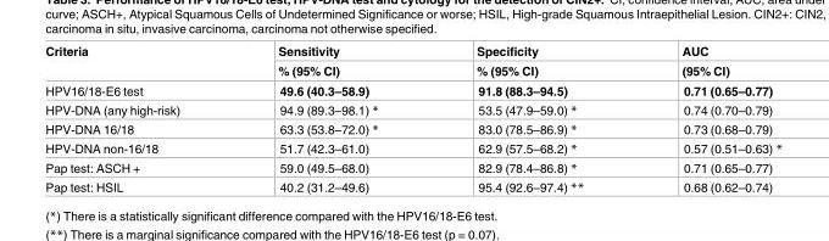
<table><thead><tr><td rowspan="2">Criteria</td><td rowspan="2">Sensitivity % (95% CI)</td><td rowspan="2">Specificity % (95% CI)</td><td rowspan="2">AUC (95% CI)</td></tr><tr></tr></thead><tbody><tr><td>HPV16/18-E6 test</td><td>49.6 (40.3–58.9)</td><td>91.8 (88.3–94.5)</td><td>0.71 (0.65–0.77)</td></tr><tr><td>HPV-DNA (any high-risk)</td><td>94.9 (89.3–98.1) *</td><td>53.5 (47.9–59.0) *</td><td>0.74 (0.70–0.79)</td></tr><tr><td>HPV-DNA 16/18</td><td>63.3 (53.8–72.0) *</td><td>83.0 (78.5–86.9) *</td><td>0.73 (0.68–0.79)</td></tr><tr><td>HPV-DNA non-16/18</td><td>51.7 (42.3–61.0)</td><td>62.9 (57.5–68.2) *</td><td>0.57 (0.51–0.63) *</td></tr><tr><td>Pap test: ASCH +</td><td>59.0 (49.5–68.0)</td><td>82.9 (78.4–86.8) *</td><td>0.71 (0.65–0.77)</td></tr><tr><td>Pap test: HSIL</td><td>40.2 (31.2–49.6)</td><td>95.4 (92.6–97.4) **</td><td>0.68 (0.62–0.74)</td></tr></tbody></table>